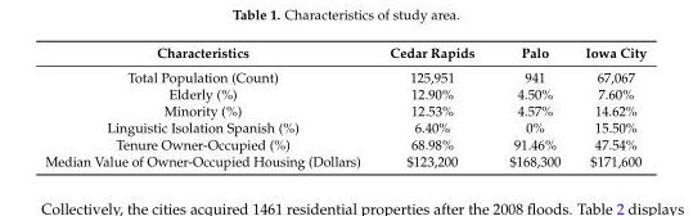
<table><thead><tr><td>Characteristics</td><td>Cedar Rapids</td><td>Palo</td><td>Iowa City</td></tr></thead><tbody><tr><td>Total Population (Count)</td><td>125,951</td><td>941</td><td>67,067</td></tr><tr><td>Elderly (%)</td><td>12.90%</td><td>4.50%</td><td>7.60%</td></tr><tr><td>Minority (%)</td><td>12.53%</td><td>4.57%</td><td>14.62%</td></tr><tr><td>Linguistic Isolation Spanish (%)</td><td>6.40%</td><td>0%</td><td>15.50%</td></tr><tr><td>Tenure Owner-Occupied (%)</td><td>68.98%</td><td>91.46%</td><td>47.54%</td></tr><tr><td>Median Value of Owner-Occupied Housing (Dollars)</td><td>$123,200</td><td>$168,300</td><td>$171,600</td></tr></tbody></table>